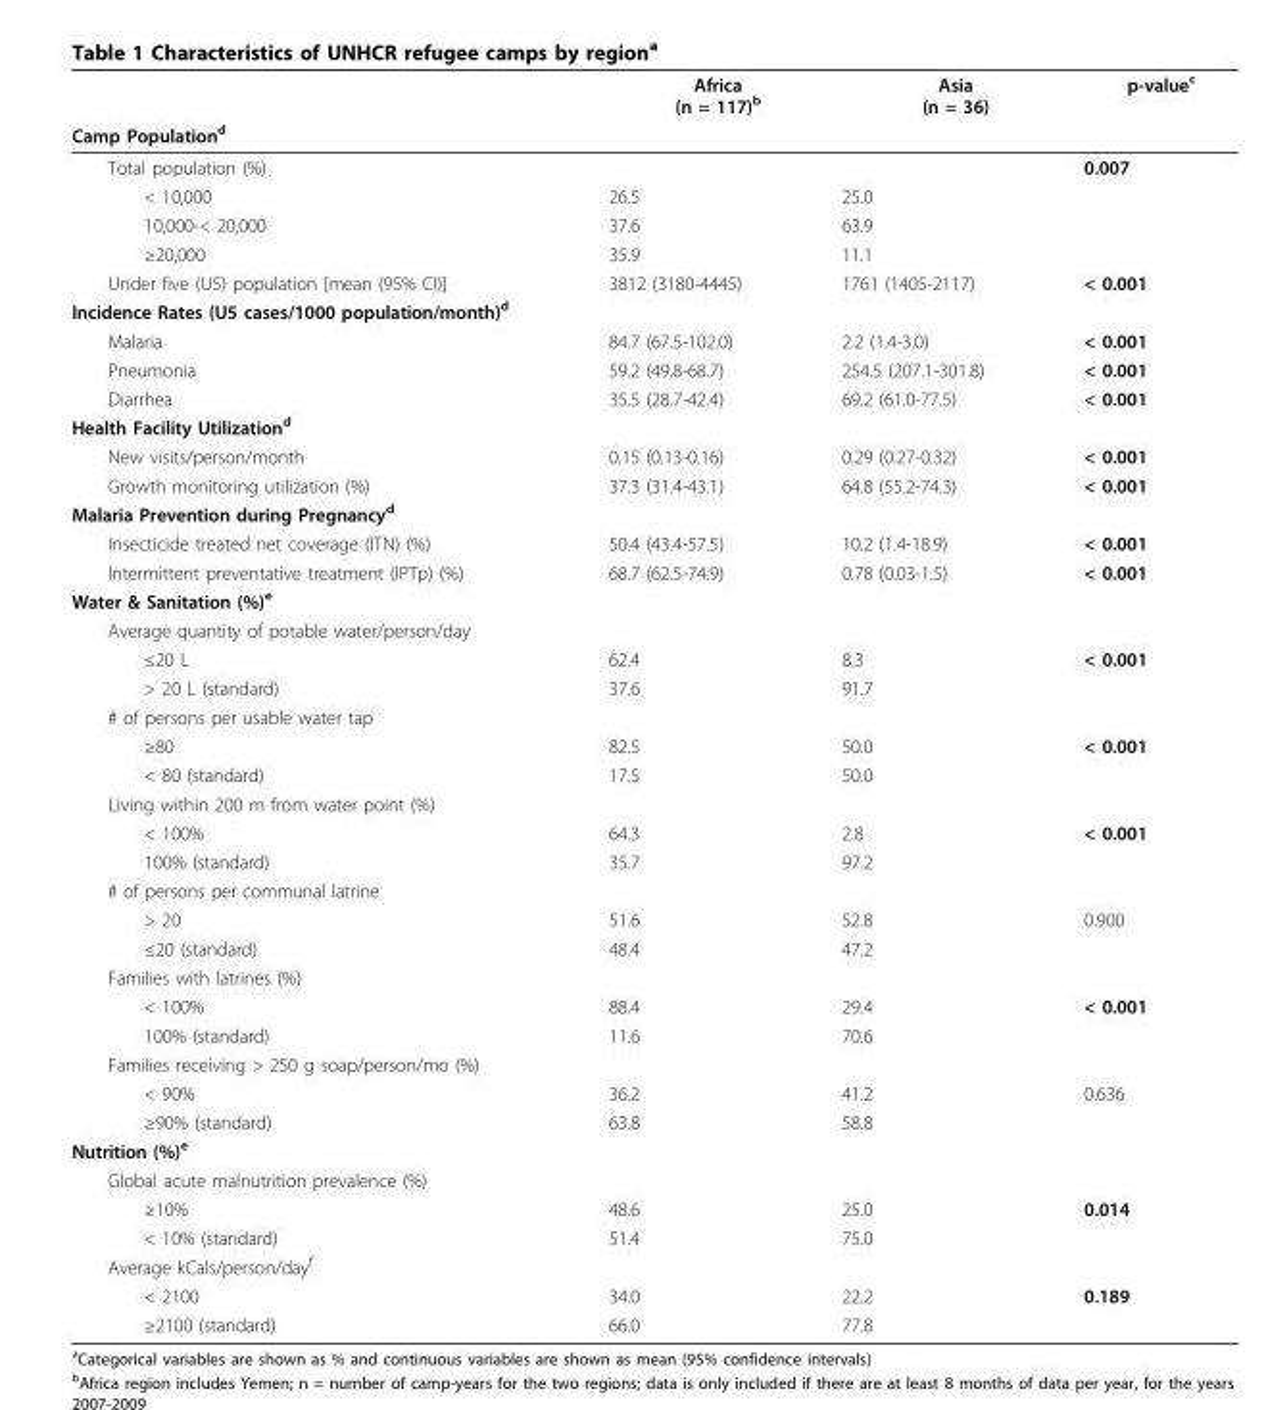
<table><thead><tr><td rowspan="2">Camp Population<sup>d</sup></td><td rowspan="2">Africa (n = 117)<sup>b</sup></td><td rowspan="2">Asia (n = 36)</td><td rowspan="2">p-value<sup>c</sup></td></tr><tr></tr></thead><tbody><tr><td>Total population (%)</td><td></td><td></td><td>0.007</td></tr><tr><td>&lt; 10,000</td><td>26.5</td><td>25.0</td><td></td></tr><tr><td>10,000-&lt; 20,000</td><td>37.6</td><td>63.9</td><td></td></tr><tr><td>≥20,000</td><td>35.9</td><td>11.1</td><td></td></tr><tr><td>Under five (U5) population [mean (95% CI)]</td><td>3812 (3180-4445)</td><td>1761 (1405-2117)</td><td>&lt; 0.001</td></tr><tr><td colspan="4">Incidence Rates (U5 cases/1000 population/month)<sup>d</sup></td></tr><tr><td>Malaria</td><td>84.7 (67.5-102.0)</td><td>2.2 (1.4-3.0)</td><td>&lt; 0.001</td></tr><tr><td>Pneumonia</td><td>59.2 (49.8-68.7)</td><td>254.5 (207.1-301.8)</td><td>&lt; 0.001</td></tr><tr><td>Diarrhea</td><td>35.5 (28.7-42.4)</td><td>69.2 (61.0-77.5)</td><td>&lt; 0.001</td></tr><tr><td colspan="4">Health Facility Utilization<sup>d</sup></td></tr><tr><td>New visits/person/month</td><td>0.15 (0.13-0.16)</td><td>0.29 (0.27-0.32)</td><td>&lt; 0.001</td></tr><tr><td>Growth monitoring utilization (%)</td><td>37.3 (31.4-43.1)</td><td>64.8 (55.2-74.3)</td><td>&lt; 0.001</td></tr><tr><td colspan="4">Malaria Prevention during Pregnancy<sup>d</sup></td></tr><tr><td>Insecticide treated net coverage (ITN) (%)</td><td>50.4 (43.4-57.5)</td><td>10.2 (1.4-18.9)</td><td>&lt; 0.001</td></tr><tr><td>Intermittent preventative treatment (IPTp) (%)</td><td>68.7 (62.5-74.9)</td><td>0.78 (0.03-1.5)</td><td>&lt; 0.001</td></tr><tr><td colspan="4">Water &amp; Sanitation (%)<sup>e</sup></td></tr><tr><td colspan="4">Average quantity of potable water/person/day</td></tr><tr><td>≤20 L</td><td>62.4</td><td>8.3</td><td>&lt; 0.001</td></tr><tr><td>&gt; 20 L (standard)</td><td>37.6</td><td>91.7</td><td></td></tr><tr><td colspan="4"># of persons per usable water tap</td></tr><tr><td>≥80</td><td>82.5</td><td>50.0</td><td>&lt; 0.001</td></tr><tr><td>&lt; 80 (standard)</td><td>17.5</td><td>50.0</td><td></td></tr><tr><td colspan="4">Living within 200 m from water point (%)</td></tr><tr><td>&lt; 100%</td><td>64.3</td><td>2.8</td><td>&lt; 0.001</td></tr><tr><td>100% (standard)</td><td>35.7</td><td>97.2</td><td></td></tr><tr><td colspan="4"># of persons per communal latrine</td></tr><tr><td>&gt; 20</td><td>51.6</td><td>52.8</td><td>0.900</td></tr><tr><td>≤20 (standard)</td><td>48.4</td><td>47.2</td><td></td></tr><tr><td colspan="4">Families with latrines (%)</td></tr><tr><td>&lt; 100%</td><td>88.4</td><td>29.4</td><td>&lt; 0.001</td></tr><tr><td>100% (standard)</td><td>11.6</td><td>70.6</td><td></td></tr><tr><td colspan="4">Families receiving &gt; 250 g soap/person/mo (%)</td></tr><tr><td>&lt; 90%</td><td>36.2</td><td>41.2</td><td>0.636</td></tr><tr><td>≥90% (standard)</td><td>63.8</td><td>58.8</td><td></td></tr><tr><td colspan="4">Nutrition (%)<sup>e</sup></td></tr><tr><td colspan="4">Global acute malnutrition prevalence (%)</td></tr><tr><td>≥10%</td><td>48.6</td><td>25.0</td><td>0.014</td></tr><tr><td>&lt; 10% (standard)</td><td>51.4</td><td>75.0</td><td></td></tr><tr><td colspan="4">Average kCals/person/day<sup>f</sup></td></tr><tr><td>&lt; 2100</td><td>34.0</td><td>22.2</td><td>0.189</td></tr><tr><td>≥2100 (standard)</td><td>66.0</td><td>77.8</td><td></td></tr></tbody></table>